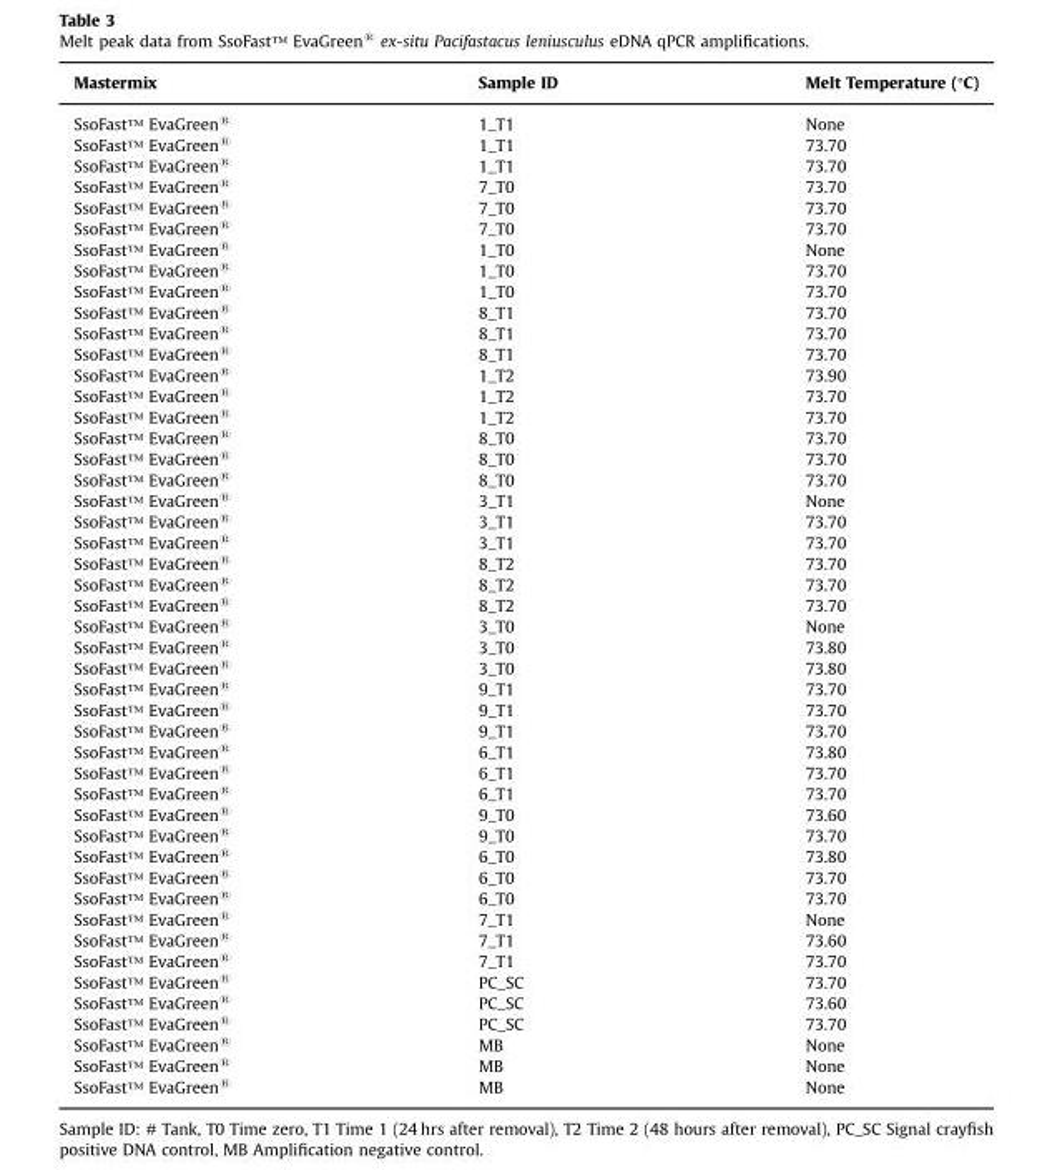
<table><thead><tr><td>Mastermix</td><td>Sample ID</td><td>Melt Temperature (°C)</td></tr></thead><tbody><tr><td>SsoFast™ EvaGreen®</td><td>1_T1</td><td>None</td></tr><tr><td>SsoFast™ EvaGreen®</td><td>1_T1</td><td>73.70</td></tr><tr><td>SsoFast™ EvaGreen®</td><td>1_T1</td><td>73.70</td></tr><tr><td>SsoFast™ EvaGreen®</td><td>7_T0</td><td>73.70</td></tr><tr><td>SsoFast™ EvaGreen®</td><td>7_T0</td><td>73.70</td></tr><tr><td>SsoFast™ EvaGreen®</td><td>7_T0</td><td>73.70</td></tr><tr><td>SsoFast™ EvaGreen®</td><td>1_T0</td><td>None</td></tr><tr><td>SsoFast™ EvaGreen®</td><td>1_T0</td><td>73.70</td></tr><tr><td>SsoFast™ EvaGreen®</td><td>1_T0</td><td>73.70</td></tr><tr><td>SsoFast™ EvaGreen®</td><td>8_T1</td><td>73.70</td></tr><tr><td>SsoFast™ EvaGreen®</td><td>8_T1</td><td>73.70</td></tr><tr><td>SsoFast™ EvaGreen®</td><td>8_T1</td><td>73.70</td></tr><tr><td>SsoFast™ EvaGreen®</td><td>1_T2</td><td>73.90</td></tr><tr><td>SsoFast™ EvaGreen®</td><td>1_T2</td><td>73.70</td></tr><tr><td>SsoFast™ EvaGreen®</td><td>1_T2</td><td>73.70</td></tr><tr><td>SsoFast™ EvaGreen®</td><td>8_T0</td><td>73.70</td></tr><tr><td>SsoFast™ EvaGreen®</td><td>8_T0</td><td>73.70</td></tr><tr><td>SsoFast™ EvaGreen®</td><td>8_T0</td><td>73.70</td></tr><tr><td>SsoFast™ EvaGreen®</td><td>3_T1</td><td>None</td></tr><tr><td>SsoFast™ EvaGreen®</td><td>3_T1</td><td>73.70</td></tr><tr><td>SsoFast™ EvaGreen®</td><td>3_T1</td><td>73.70</td></tr><tr><td>SsoFast™ EvaGreen®</td><td>8_T2</td><td>73.70</td></tr><tr><td>SsoFast™ EvaGreen®</td><td>8_T2</td><td>73.70</td></tr><tr><td>SsoFast™ EvaGreen®</td><td>8_T2</td><td>73.70</td></tr><tr><td>SsoFast™ EvaGreen®</td><td>3_T0</td><td>None</td></tr><tr><td>SsoFast™ EvaGreen®</td><td>3_T0</td><td>73.80</td></tr><tr><td>SsoFast™ EvaGreen®</td><td>3_T0</td><td>73.80</td></tr><tr><td>SsoFast™ EvaGreen®</td><td>9_T1</td><td>73.70</td></tr><tr><td>SsoFast™ EvaGreen®</td><td>9_T1</td><td>73.70</td></tr><tr><td>SsoFast™ EvaGreen®</td><td>9_T1</td><td>73.70</td></tr><tr><td>SsoFast™ EvaGreen®</td><td>6_T1</td><td>73.80</td></tr><tr><td>SsoFast™ EvaGreen®</td><td>6_T1</td><td>73.70</td></tr><tr><td>SsoFast™ EvaGreen®</td><td>6_T1</td><td>73.70</td></tr><tr><td>SsoFast™ EvaGreen®</td><td>9_T0</td><td>73.60</td></tr><tr><td>SsoFast™ EvaGreen®</td><td>9_T0</td><td>73.70</td></tr><tr><td>SsoFast™ EvaGreen®</td><td>6_T0</td><td>73.80</td></tr><tr><td>SsoFast™ EvaGreen®</td><td>6_T0</td><td>73.70</td></tr><tr><td>SsoFast™ EvaGreen®</td><td>6_T0</td><td>73.70</td></tr><tr><td>SsoFast™ EvaGreen®</td><td>7_T1</td><td>None</td></tr><tr><td>SsoFast™ EvaGreen®</td><td>7_T1</td><td>73.60</td></tr><tr><td>SsoFast™ EvaGreen®</td><td>7_T1</td><td>73.70</td></tr><tr><td>SsoFast™ EvaGreen®</td><td>PC_SC</td><td>73.70</td></tr><tr><td>SsoFast™ EvaGreen®</td><td>PC_SC</td><td>73.60</td></tr><tr><td>SsoFast™ EvaGreen®</td><td>PC_SC</td><td>73.70</td></tr><tr><td>SsoFast™ EvaGreen®</td><td>MB</td><td>None</td></tr><tr><td>SsoFast™ EvaGreen®</td><td>MB</td><td>None</td></tr><tr><td>SsoFast™ EvaGreen®</td><td>MB</td><td>None</td></tr></tbody></table>